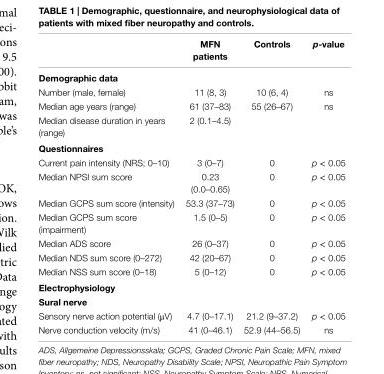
<table><thead><tr><td></td><td>MFn patients</td><td>controls</td><td>p-value</td></tr></thead><tbody><tr><td colspan="4">Demographic data</td></tr><tr><td>Number (male, female)</td><td>11 (8, 3)</td><td>10 (6, 4)</td><td>ns</td></tr><tr><td>Median age years (range)</td><td>61 (37–83)</td><td>55 (26–67)</td><td>ns</td></tr><tr><td>Median disease duration in years (range)</td><td>2 (0.1–4.5)</td><td></td><td></td></tr><tr><td colspan="4">Questionnaires</td></tr><tr><td>Current pain intensity (NRS; 0–10)</td><td>3 (0–7)</td><td>0</td><td>p &lt; 0.05</td></tr><tr><td>Median NPSI sum score</td><td>0.23 (0.0–0.65)</td><td>0</td><td>p &lt; 0.05</td></tr><tr><td>Median GCPS sum score (intensity)</td><td>53.3 (37–73)</td><td>0</td><td>p &lt; 0.05</td></tr><tr><td>Median GCPS sum score (impairment)</td><td>1.5 (0–5)</td><td>0</td><td>p &lt; 0.05</td></tr><tr><td>Median ADS score</td><td>26 (0–37)</td><td>0</td><td>p &lt; 0.05</td></tr><tr><td>Median NDS sum score (0–272)</td><td>42 (20–67)</td><td>0</td><td>p &lt; 0.05</td></tr><tr><td>Median NSS sum score (0–18)</td><td>5 (0–12)</td><td>0</td><td>p &lt; 0.05</td></tr><tr><td colspan="4">electrophysiology</td></tr><tr><td colspan="4">sural nerve</td></tr><tr><td>Sensory nerve action potential (μV)</td><td>4.7 (0–17.1)</td><td>21.2 (9–37.2)</td><td>p &lt; 0.05</td></tr><tr><td>Nerve conduction velocity (m/s)</td><td>41 (0–46.1)</td><td>52.9 (44–56.5)</td><td>ns</td></tr></tbody></table>